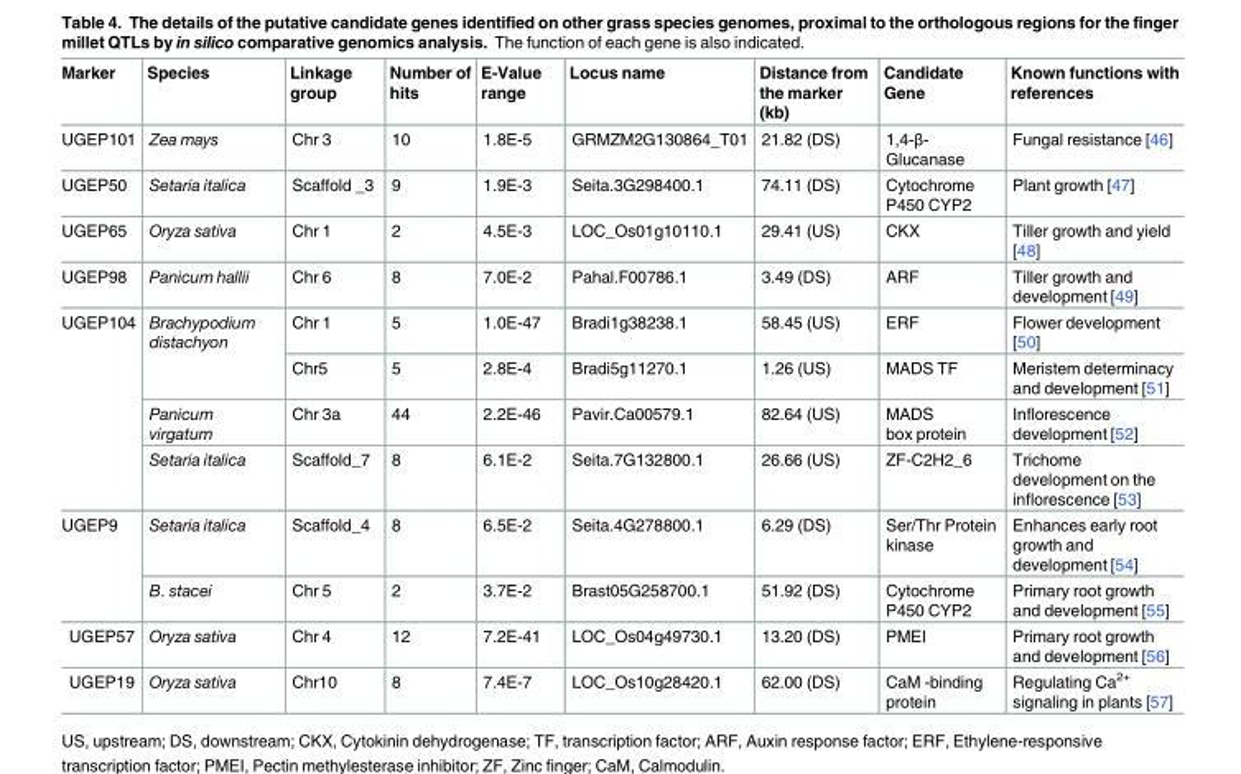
<table><thead><tr><td>Marker</td><td>Species</td><td>Linkage group</td><td>Number of hits</td><td>E-Value range</td><td>Locus name</td><td>Distance from the marker (kb)</td><td>Candidate Gene</td><td>Known functions with references</td></tr></thead><tbody><tr><td>UGEP101</td><td>Zea mays</td><td>Chr 3</td><td>10</td><td>1.8E-5</td><td>GRMZM2G130864_T01</td><td>21.82 (DS)</td><td>1,4-β- Glucanase</td><td>Fungal resistance [46]</td></tr><tr><td>UGEP50</td><td>Setaria italica</td><td>Scaffold _3</td><td>9</td><td>1.9E-3</td><td>Seita.3G298400.1</td><td>74.11 (DS)</td><td>Cytochrome P450 CYP2</td><td>Plant growth [47]</td></tr><tr><td>UGEP65</td><td>Oryza sativa</td><td>Chr 1</td><td>2</td><td>4.5E-3</td><td>LOC_Os01g10110.1</td><td>29.41 (US)</td><td>CKX</td><td>Tiller growth and yield [48]</td></tr><tr><td>UGEP98</td><td>Panicum hallii</td><td>Chr 6</td><td>8</td><td>7.0E-2</td><td>Pahal.F00786.1</td><td>3.49 (DS)</td><td>ARF</td><td>Tiller growth and development [49]</td></tr><tr><td rowspan="4">UGEP104</td><td rowspan="2">Brachypodium distachyon</td><td>Chr 1</td><td>5</td><td>1.0E-47</td><td>Bradi1g38238.1</td><td>58.45 (US)</td><td>ERF</td><td>Flower development [50]</td></tr><tr><td>Chr5</td><td>5</td><td>2.8E-4</td><td>Bradi5g11270.1</td><td>1.26 (US)</td><td>MADS TF</td><td>Meristem determinacy and development [51]</td></tr><tr><td>Panicum virgatum</td><td>Chr 3a</td><td>44</td><td>2.2E-46</td><td>Pavir.Ca00579.1</td><td>82.64 (US)</td><td>MADS box protein</td><td>Inflorescence development [52]</td></tr><tr><td>Setaria italica</td><td>Scaffold_7</td><td>8</td><td>6.1E-2</td><td>Seita.7G132800.1</td><td>26.66 (US)</td><td>ZF-C2H2_6</td><td>Trichome development on the inflorescence [53]</td></tr><tr><td rowspan="2">UGEP9</td><td>Setaria italica</td><td>Scaffold_4</td><td>8</td><td>6.5E-2</td><td>Seita.4G278800.1</td><td>6.29 (DS)</td><td>Ser/Thr Protein kinase</td><td>Enhances early root growth and development [54]</td></tr><tr><td>B. stacei</td><td>Chr 5</td><td>2</td><td>3.7E-2</td><td>Brast05G258700.1</td><td>51.92 (DS)</td><td>Cytochrome P450 CYP2</td><td>Primary root growth and development [55]</td></tr><tr><td>UGEP57</td><td>Oryza sativa</td><td>Chr 4</td><td>12</td><td>7.2E-41</td><td>LOC_Os04g49730.1</td><td>13.20 (DS)</td><td>PMEI</td><td>Primary root growth and development [56]</td></tr><tr><td>UGEP19</td><td>Oryza sativa</td><td>Chr10</td><td>8</td><td>7.4E-7</td><td>LOC_Os10g28420.1</td><td>62.00 (DS)</td><td>CaM -binding protein</td><td>Regulating Ca<sup>2+</sup> signaling in plants [57]</td></tr></tbody></table>